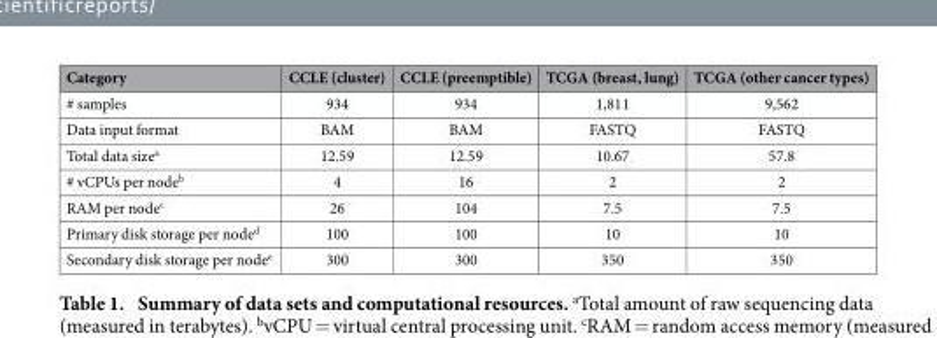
<table><thead><tr><td>Category</td><td>CCLE (cluster)</td><td>CCLE (preemptible)</td><td>TCGA (breast, lung)</td><td>TCGA (other cancer types)</td></tr></thead><tbody><tr><td># samples</td><td>934</td><td>934</td><td>1,811</td><td>9,562</td></tr><tr><td>Data input format</td><td>BAM</td><td>BAM</td><td>FASTQ</td><td>FASTQ</td></tr><tr><td>Total data size<sup>a</sup></td><td>12.59</td><td>12.59</td><td>10.67</td><td>57.8</td></tr><tr><td># vCPUs per node<sup>b</sup></td><td>4</td><td>16</td><td>2</td><td>2</td></tr><tr><td>RAM per node<sup>c</sup></td><td>26</td><td>104</td><td>7.5</td><td>7.5</td></tr><tr><td>Primary disk storage per node<sup>d</sup></td><td>100</td><td>100</td><td>10</td><td>10</td></tr><tr><td>Secondary disk storage per node<sup>e</sup></td><td>300</td><td>300</td><td>350</td><td>350</td></tr></tbody></table>